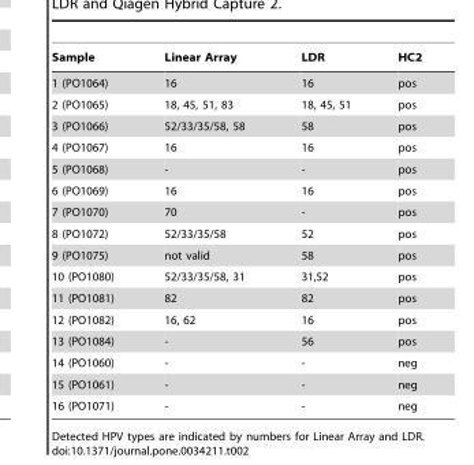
<table><thead><tr><td>Sample</td><td>Linear Array</td><td>LDR</td><td>HC2</td></tr></thead><tbody><tr><td>1 (PO1064)</td><td>16</td><td>16</td><td>pos</td></tr><tr><td>2 (PO1065)</td><td>18, 45, 51, 83</td><td>18, 45, 51</td><td>pos</td></tr><tr><td>3 (PO1066)</td><td>52/33/35/58, 58</td><td>58</td><td>pos</td></tr><tr><td>4 (PO1067)</td><td>16</td><td>16</td><td>pos</td></tr><tr><td>5 (PO1068)</td><td>-</td><td>-</td><td>pos</td></tr><tr><td>6 (PO1069)</td><td>16</td><td>16</td><td>pos</td></tr><tr><td>7 (PO1070)</td><td>70</td><td>-</td><td>pos</td></tr><tr><td>8 (PO1072)</td><td>52/33/35/58</td><td>52</td><td>pos</td></tr><tr><td>9 (PO1075)</td><td>not valid</td><td>58</td><td>pos</td></tr><tr><td>10 (PO1080)</td><td>52/33/35/58, 31</td><td>31,52</td><td>pos</td></tr><tr><td>11 (PO1081)</td><td>82</td><td>82</td><td>pos</td></tr><tr><td>12 (PO1082)</td><td>16, 62</td><td>16</td><td>pos</td></tr><tr><td>13 (PO1084)</td><td>-</td><td>56</td><td>pos</td></tr><tr><td>14 (PO1060)</td><td>-</td><td>-</td><td>neg</td></tr><tr><td>15 (PO1061)</td><td>-</td><td>-</td><td>neg</td></tr><tr><td>16 (PO1071)</td><td>-</td><td>-</td><td>neg</td></tr></tbody></table>